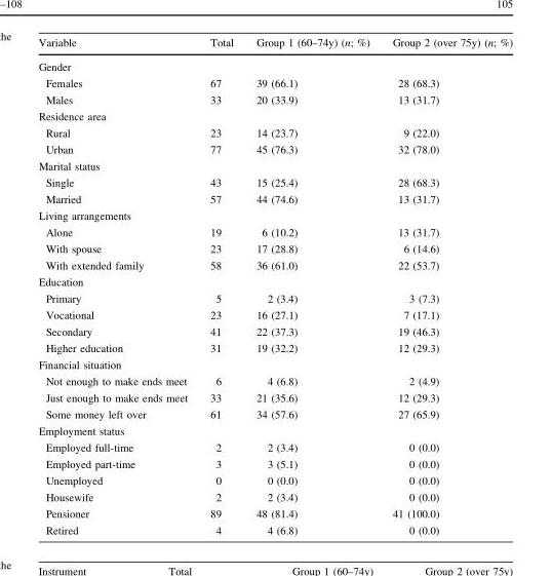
<table><thead><tr><td>Variable</td><td>Total</td><td>Group 1 (60–74y) (n; %)</td><td>Group 2 (over 75y) (n; %)</td></tr></thead><tbody><tr><td colspan="4">Gender</td></tr><tr><td>Females</td><td>67</td><td>39 (66.1)</td><td>28 (68.3)</td></tr><tr><td>Males</td><td>33</td><td>20 (33.9)</td><td>13 (31.7)</td></tr><tr><td colspan="4">Residence area</td></tr><tr><td>Rural</td><td>23</td><td>14 (23.7)</td><td>9 (22.0)</td></tr><tr><td>Urban</td><td>77</td><td>45 (76.3)</td><td>32 (78.0)</td></tr><tr><td colspan="4">Marital status</td></tr><tr><td>Single</td><td>43</td><td>15 (25.4)</td><td>28 (68.3)</td></tr><tr><td>Married</td><td>57</td><td>44 (74.6)</td><td>13 (31.7)</td></tr><tr><td colspan="4">Living arrangements</td></tr><tr><td>Alone</td><td>19</td><td>6 (10.2)</td><td>13 (31.7)</td></tr><tr><td>With spouse</td><td>23</td><td>17 (28.8)</td><td>6 (14.6)</td></tr><tr><td>With extended family</td><td>58</td><td>36 (61.0)</td><td>22 (53.7)</td></tr><tr><td colspan="4">Education</td></tr><tr><td>Primary</td><td>5</td><td>2 (3.4)</td><td>3 (7.3)</td></tr><tr><td>Vocational</td><td>23</td><td>16 (27.1)</td><td>7 (17.1)</td></tr><tr><td>Secondary</td><td>41</td><td>22 (37.3)</td><td>19 (46.3)</td></tr><tr><td>Higher education</td><td>31</td><td>19 (32.2)</td><td>12 (29.3)</td></tr><tr><td colspan="4">Financial situation</td></tr><tr><td>Not enough to make ends meet</td><td>6</td><td>4 (6.8)</td><td>2 (4.9)</td></tr><tr><td>Just enough to make ends meet</td><td>33</td><td>21 (35.6)</td><td>12 (29.3)</td></tr><tr><td>Some money left over</td><td>61</td><td>34 (57.6)</td><td>27 (65.9)</td></tr><tr><td colspan="4">Employment status</td></tr><tr><td>Employed full-time</td><td>2</td><td>2 (3.4)</td><td>0 (0.0)</td></tr><tr><td>Employed part-time</td><td>3</td><td>3 (5.1)</td><td>0 (0.0)</td></tr><tr><td>Unemployed</td><td>0</td><td>0 (0.0)</td><td>0 (0.0)</td></tr><tr><td>Housewife</td><td>2</td><td>2 (3.4)</td><td>0 (0.0)</td></tr><tr><td>Pensioner</td><td>89</td><td>48 (81.4)</td><td>41 (100.0)</td></tr><tr><td>Retired</td><td>4</td><td>4 (6.8)</td><td>0 (0.0)</td></tr></tbody></table>